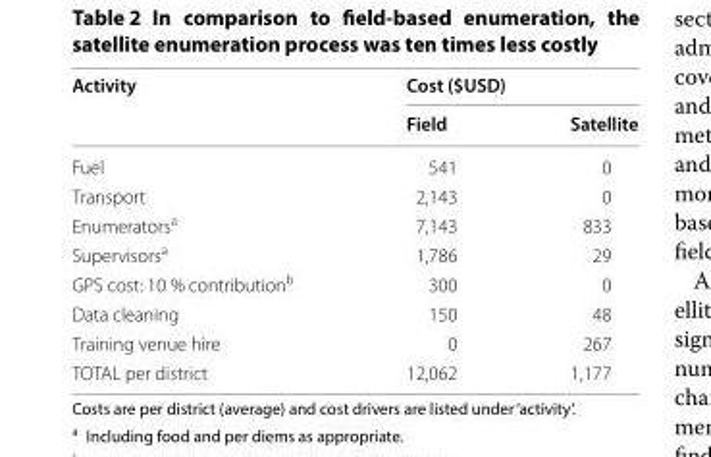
<table><thead><tr><td rowspan="2">Activity</td><td colspan="2">Cost ($USD)</td></tr><tr><td>Field</td><td>Satellite</td></tr></thead><tbody><tr><td>Fuel</td><td>541</td><td>0</td></tr><tr><td>Transport</td><td>2,143</td><td>0</td></tr><tr><td>Enumerators<sup>a</sup></td><td>7,143</td><td>833</td></tr><tr><td>Supervisors<sup>a</sup></td><td>1,786</td><td>29</td></tr><tr><td>GPS cost: 10 % contribution<sup>b</sup></td><td>300</td><td>0</td></tr><tr><td>Data cleaning</td><td>150</td><td>48</td></tr><tr><td>Training venue hire</td><td>0</td><td>267</td></tr><tr><td>TOTAL per district</td><td>12,062</td><td>1,177</td></tr></tbody></table>